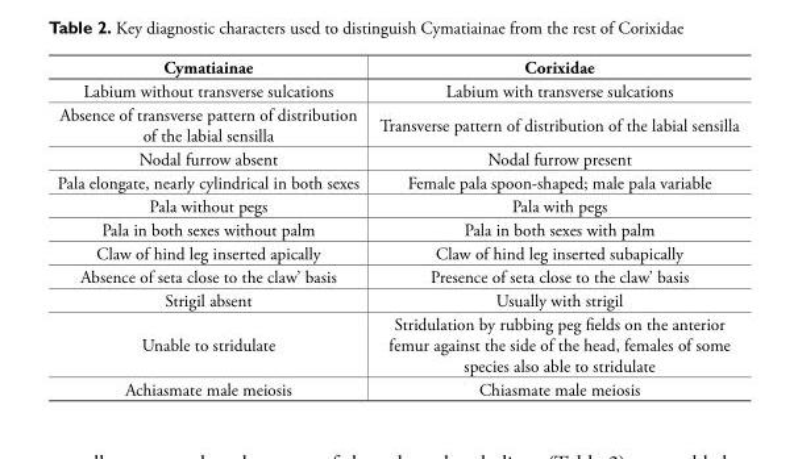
<table><thead><tr><td>Cymatiainae</td><td>Corixidae</td></tr></thead><tbody><tr><td>Labium without transverse sulcations</td><td>Labium with transverse sulcations</td></tr><tr><td>Absence of transverse pattern of distribution of the labial sensilla</td><td>Transverse pattern of distribution of the labial sensilla</td></tr><tr><td>Nodal furrow absent</td><td>Nodal furrow present</td></tr><tr><td>Pala elongate, nearly cylindrical in both sexes</td><td>Female pala spoon-shaped; male pala variable</td></tr><tr><td>Pala without pegs</td><td>Pala with pegs</td></tr><tr><td>Pala in both sexes without palm</td><td>Pala in both sexes with palm</td></tr><tr><td>Claw of hind leg inserted apically</td><td>Claw of hind leg inserted subapically</td></tr><tr><td>Absence of seta close to the claw’ basis</td><td>Presence of seta close to the claw’ basis</td></tr><tr><td>Strigil absent</td><td>Usually with strigil</td></tr><tr><td>Unable to stridulate</td><td>Stridulation by rubbing peg fields on the anterior femur against the side of the head, females of some species also able to stridulate</td></tr><tr><td>Achiasmate male meiosis</td><td>Chiasmate male meiosis</td></tr></tbody></table>